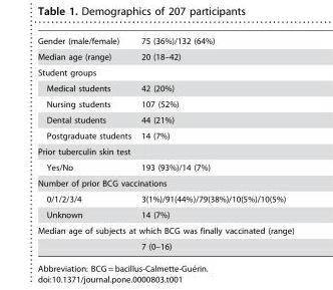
<table><tbody><tr><td>Gender (male/female)</td><td>75 (36%)/132 (64%)</td></tr><tr><td>Median age (range)</td><td>20 (18–42)</td></tr><tr><td colspan="2">Student groups</td></tr><tr><td>Medical students</td><td>42 (20%)</td></tr><tr><td>Nursing students</td><td>107 (52%)</td></tr><tr><td>Dental students</td><td>44 (21%)</td></tr><tr><td>Postgraduate students</td><td>14 (7%)</td></tr><tr><td colspan="2">Prior tuberculin skin test</td></tr><tr><td>Yes/No</td><td>193 (93%)/14 (7%)</td></tr><tr><td colspan="2">Number of prior BCG vaccinations</td></tr><tr><td>0/1/2/3/4</td><td>3(1%)/91(44%)/79(38%)/10(5%)/10(5%)</td></tr><tr><td>Unknown</td><td>14 (7%)</td></tr><tr><td colspan="2">Median age of subjects at which BCG was finally vaccinated (range)</td></tr><tr><td></td><td>7 (0–16)</td></tr></tbody></table>